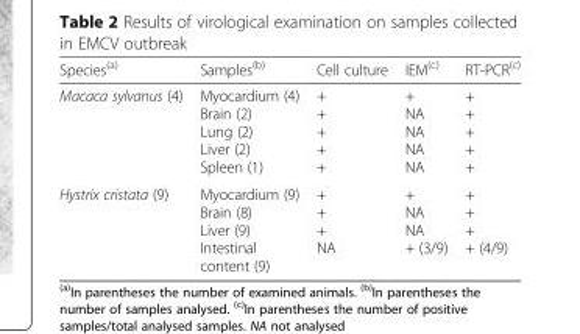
<table><thead><tr><td>Species<sup>(a)</sup></td><td>Samples<sup>(b)</sup></td><td>Cell culture</td><td>IEM<sup>(c)</sup></td><td>RT-PCR<sup>(c)</sup></td></tr></thead><tbody><tr><td>Macaca sylvanus (4)</td><td>Myocardium (4) Brain (2) Lung (2) Liver (2) Spleen (1)</td><td>+ + + + +</td><td>+ NA NA NA NA</td><td>+ + + + +</td></tr><tr><td>Hystrix cristata (9)</td><td>Myocardium (9) Brain (8) Liver (9) Intestinal content (9)</td><td>+ + + NA</td><td>+ NA NA + (3/9)</td><td>+ + + + (4/9)</td></tr></tbody></table>